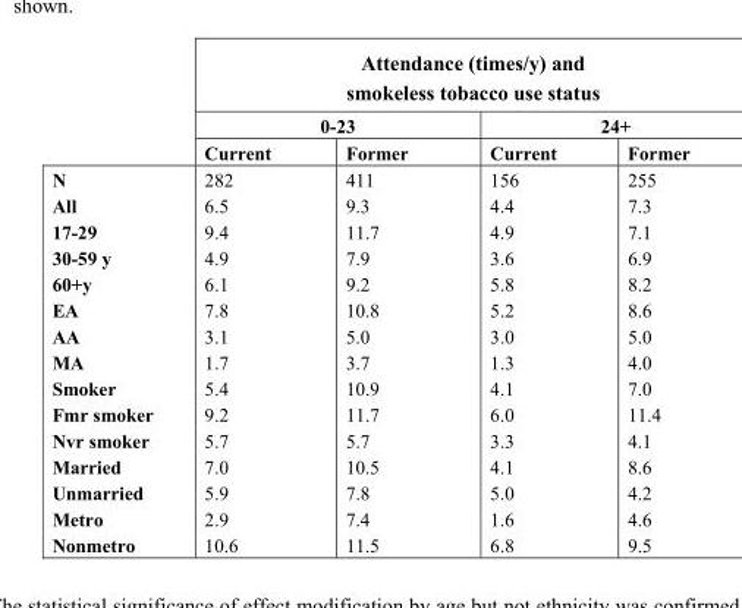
<table><thead><tr><td rowspan="3"></td><td colspan="4">Attendance (times/y) and smokeless tobacco use status</td></tr><tr><td colspan="2">0-23</td><td colspan="2">24+</td></tr><tr><td>Current</td><td>Former</td><td>Current</td><td>Former</td></tr></thead><tbody><tr><td>N</td><td>282</td><td>411</td><td>156</td><td>255</td></tr><tr><td>All</td><td>6.5</td><td>9.3</td><td>4.4</td><td>7.3</td></tr><tr><td>17-29</td><td>9.4</td><td>11.7</td><td>4.9</td><td>7.1</td></tr><tr><td>30-59 y</td><td>4.9</td><td>7.9</td><td>3.6</td><td>6.9</td></tr><tr><td>60+y</td><td>6.1</td><td>9.2</td><td>5.8</td><td>8.2</td></tr><tr><td>EA</td><td>7.8</td><td>10.8</td><td>5.2</td><td>8.6</td></tr><tr><td>AA</td><td>3.1</td><td>5.0</td><td>3.0</td><td>5.0</td></tr><tr><td>MA</td><td>1.7</td><td>3.7</td><td>1.3</td><td>4.0</td></tr><tr><td>Smoker</td><td>5.4</td><td>10.9</td><td>4.1</td><td>7.0</td></tr><tr><td>Fmr smoker</td><td>9.2</td><td>11.7</td><td>6.0</td><td>11.4</td></tr><tr><td>Nvr smoker</td><td>5.7</td><td>5.7</td><td>3.3</td><td>4.1</td></tr><tr><td>Married</td><td>7.0</td><td>10.5</td><td>4.1</td><td>8.6</td></tr><tr><td>Unmarried</td><td>5.9</td><td>7.8</td><td>5.0</td><td>4.2</td></tr><tr><td>Metro</td><td>2.9</td><td>7.4</td><td>1.6</td><td>4.6</td></tr><tr><td>Nonmetro</td><td>10.6</td><td>11.5</td><td>6.8</td><td>9.5</td></tr></tbody></table>